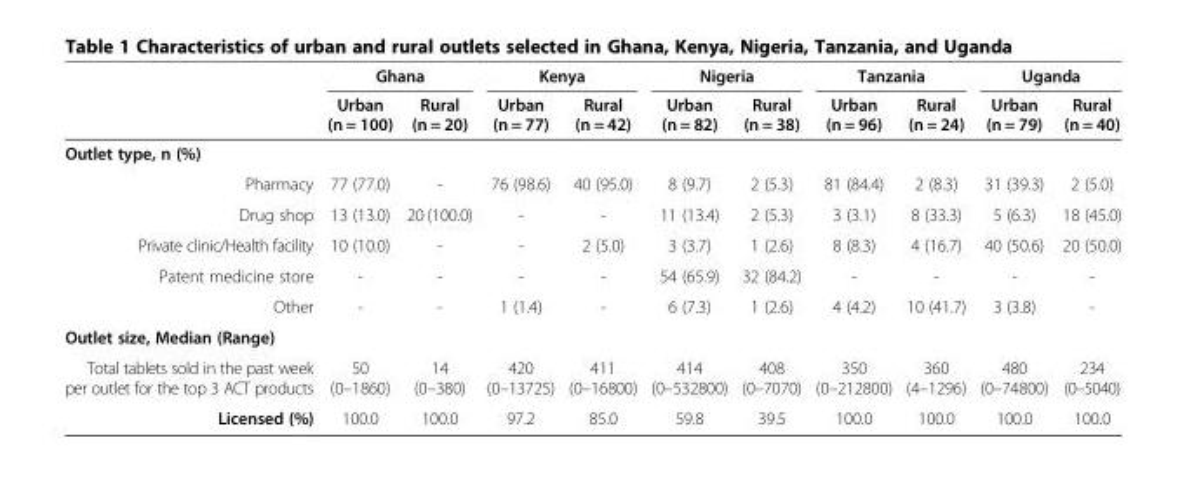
<table><thead><tr><td rowspan="2"></td><td colspan="2">Ghana</td><td colspan="2">Kenya</td><td colspan="2">Nigeria</td><td colspan="2">Tanzania</td><td colspan="2">Uganda</td></tr><tr><td>Urban (n = 100)</td><td>Rural (n = 20)</td><td>Urban (n = 77)</td><td>Rural (n = 42)</td><td>Urban (n = 82)</td><td>Rural (n = 38)</td><td>Urban (n = 96)</td><td>Rural (n = 24)</td><td>Urban (n = 79)</td><td>Rural (n = 40)</td></tr></thead><tbody><tr><td colspan="11">Outlet type, n (%)</td></tr><tr><td>Pharmacy</td><td>77 (77.0)</td><td>-</td><td>76 (98.6)</td><td>40 (95.0)</td><td>8 (9.7)</td><td>2 (5.3)</td><td>81 (84.4)</td><td>2 (8.3)</td><td>31 (39.3)</td><td>2 (5.0)</td></tr><tr><td>Drug shop</td><td>13 (13.0)</td><td>20 (100.0)</td><td>-</td><td>-</td><td>11 (13.4)</td><td>2 (5.3)</td><td>3 (3.1)</td><td>8 (33.3)</td><td>5 (6.3)</td><td>18 (45.0)</td></tr><tr><td>Private clinic/Health facility</td><td>10 (10.0)</td><td>-</td><td>-</td><td>2 (5.0)</td><td>3 (3.7)</td><td>1 (2.6)</td><td>8 (8.3)</td><td>4 (16.7)</td><td>40 (50.6)</td><td>20 (50.0)</td></tr><tr><td>Patent medicine store</td><td>-</td><td>-</td><td>-</td><td>-</td><td>54 (65.9)</td><td>32 (84.2)</td><td>-</td><td>-</td><td>-</td><td>-</td></tr><tr><td>Other</td><td>-</td><td>-</td><td>1 (1.4)</td><td>-</td><td>6 (7.3)</td><td>1 (2.6)</td><td>4 (4.2)</td><td>10 (41.7)</td><td>3 (3.8)</td><td>-</td></tr><tr><td colspan="11">Outlet size, Median (Range)</td></tr><tr><td>Total tablets sold in the past week per outlet for the top 3 ACT products</td><td>50 (0–1860)</td><td>14 (0–380)</td><td>420 (0–13725)</td><td>411 (0–16800)</td><td>414 (0–532800)</td><td>408 (0–7070)</td><td>350 (0–212800)</td><td>360 (4–1296)</td><td>480 (0–74800)</td><td>234 (0–5040)</td></tr><tr><td>Licensed (%)</td><td>100.0</td><td>100.0</td><td>97.2</td><td>85.0</td><td>59.8</td><td>39.5</td><td>100.0</td><td>100.0</td><td>100.0</td><td>100.0</td></tr></tbody></table>